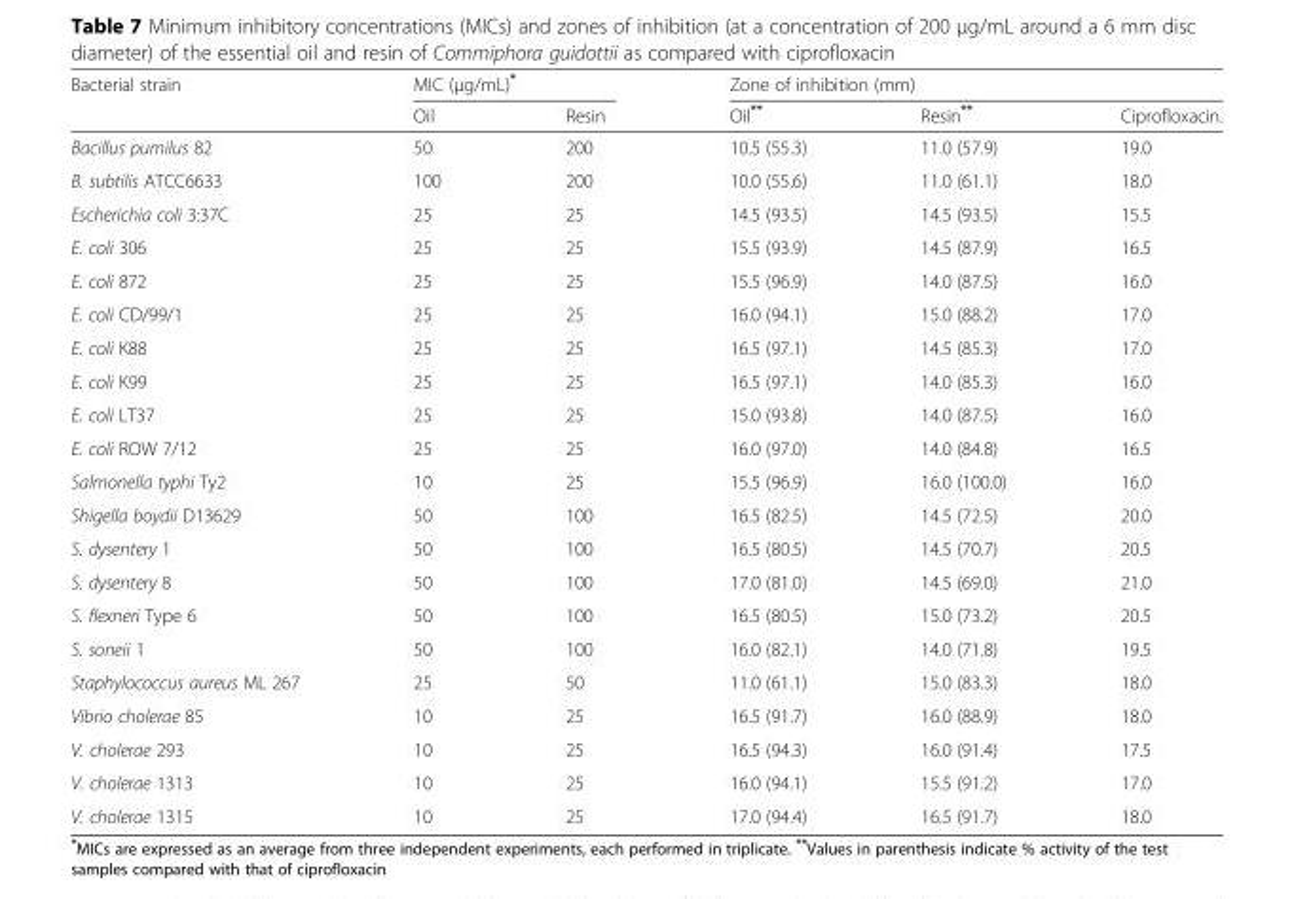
<table><thead><tr><td rowspan="2">Bacterial strain</td><td colspan="2">MIC (μg/mL)*</td><td colspan="3">Zone of inhibition (mm)</td></tr><tr><td>Oil</td><td>Resin</td><td>Oil**</td><td>Resin**</td><td>Ciprofloxacin.</td></tr></thead><tbody><tr><td>Bacillus pumilus 82</td><td>50</td><td>200</td><td>10.5 (55.3)</td><td>11.0 (57.9)</td><td>19.0</td></tr><tr><td>B. subtilis ATCC6633</td><td>100</td><td>200</td><td>10.0 (55.6)</td><td>11.0 (61.1)</td><td>18.0</td></tr><tr><td>Escherichia coli 3:37C</td><td>25</td><td>25</td><td>14.5 (93.5)</td><td>14.5 (93.5)</td><td>15.5</td></tr><tr><td>E. coli 306</td><td>25</td><td>25</td><td>15.5 (93.9)</td><td>14.5 (87.9)</td><td>16.5</td></tr><tr><td>E. coli 872</td><td>25</td><td>25</td><td>15.5 (96.9)</td><td>14.0 (87.5)</td><td>16.0</td></tr><tr><td>E. coli CD/99/1</td><td>25</td><td>25</td><td>16.0 (94.1)</td><td>15.0 (88.2)</td><td>17.0</td></tr><tr><td>E. coli K88</td><td>25</td><td>25</td><td>16.5 (97.1)</td><td>14.5 (85.3)</td><td>17.0</td></tr><tr><td>E. coli K99</td><td>25</td><td>25</td><td>16.5 (97.1)</td><td>14.0 (85.3)</td><td>16.0</td></tr><tr><td>E. coli LT37</td><td>25</td><td>25</td><td>15.0 (93.8)</td><td>14.0 (87.5)</td><td>16.0</td></tr><tr><td>E. coli ROW 7/12</td><td>25</td><td>25</td><td>16.0 (97.0)</td><td>14.0 (84.8)</td><td>16.5</td></tr><tr><td>Salmonella typhi Ty2</td><td>10</td><td>25</td><td>15.5 (96.9)</td><td>16.0 (100.0)</td><td>16.0</td></tr><tr><td>Shigella boydii D13629</td><td>50</td><td>100</td><td>16.5 (82.5)</td><td>14.5 (72.5)</td><td>20.0</td></tr><tr><td>S. dysentery 1</td><td>50</td><td>100</td><td>16.5 (80.5)</td><td>14.5 (70.7)</td><td>20.5</td></tr><tr><td>S. dysentery 8</td><td>50</td><td>100</td><td>17.0 (81.0)</td><td>14.5 (69.0)</td><td>21.0</td></tr><tr><td>S. flexneri Type 6</td><td>50</td><td>100</td><td>16.5 (80.5)</td><td>15.0 (73.2)</td><td>20.5</td></tr><tr><td>S. soneii 1</td><td>50</td><td>100</td><td>16.0 (82.1)</td><td>14.0 (71.8)</td><td>19.5</td></tr><tr><td>Staphylococcus aureus ML 267</td><td>25</td><td>50</td><td>11.0 (61.1)</td><td>15.0 (83.3)</td><td>18.0</td></tr><tr><td>Vibrio cholerae 85</td><td>10</td><td>25</td><td>16.5 (91.7)</td><td>16.0 (88.9)</td><td>18.0</td></tr><tr><td>V. cholerae 293</td><td>10</td><td>25</td><td>16.5 (94.3)</td><td>16.0 (91.4)</td><td>17.5</td></tr><tr><td>V. cholerae 1313</td><td>10</td><td>25</td><td>16.0 (94.1)</td><td>15.5 (91.2)</td><td>17.0</td></tr><tr><td>V. cholerae 1315</td><td>10</td><td>25</td><td>17.0 (94.4)</td><td>16.5 (91.7)</td><td>18.0</td></tr></tbody></table>